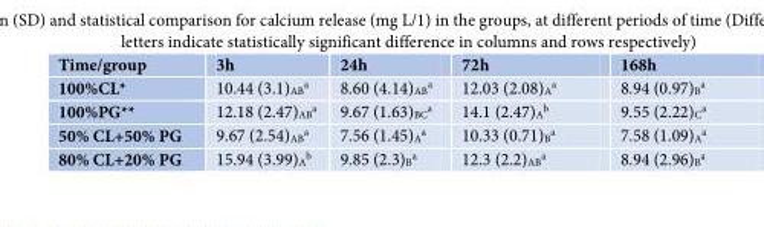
<table><thead><tr><td>Time/group</td><td>3h</td><td>24h</td><td>72h</td><td>168h</td></tr></thead><tbody><tr><td>100%CL*</td><td>10.44 (3.1)<sub>AB</sub><sup>a</sup></td><td>8.60 (4.14)<sub>AB</sub><sup>a</sup></td><td>12.03 (2.08)<sub>A</sub><sup>a</sup></td><td>8.94 (0.97)<sub>B</sub><sup>a</sup></td></tr><tr><td>100%PG**</td><td>12.18 (2.47)<sub>AB</sub><sup>a</sup></td><td>9.67 (1.63)<sub>BC</sub><sup>a</sup></td><td>14.1 (2.47)<sub>A</sub><sup>b</sup></td><td>9.55 (2.22)<sub>C</sub><sup>a</sup></td></tr><tr><td>50% CL+50% PG</td><td>9.67 (2.54)<sub>AB</sub><sup>a</sup></td><td>7.56 (1.45)<sub>A</sub><sup>a</sup></td><td>10.33 (0.71)<sub>B</sub><sup>a</sup></td><td>7.58 (1.09)<sub>A</sub><sup>a</sup></td></tr><tr><td>80% CL+20% PG</td><td>15.94 (3.99)<sub>A</sub><sup>b</sup></td><td>9.85 (2.3)<sub>B</sub><sup>a</sup></td><td>12.3 (2.2)<sub>AB</sub><sup>a</sup></td><td>8.94 (2.96)<sub>B</sub><sup>a</sup></td></tr></tbody></table>